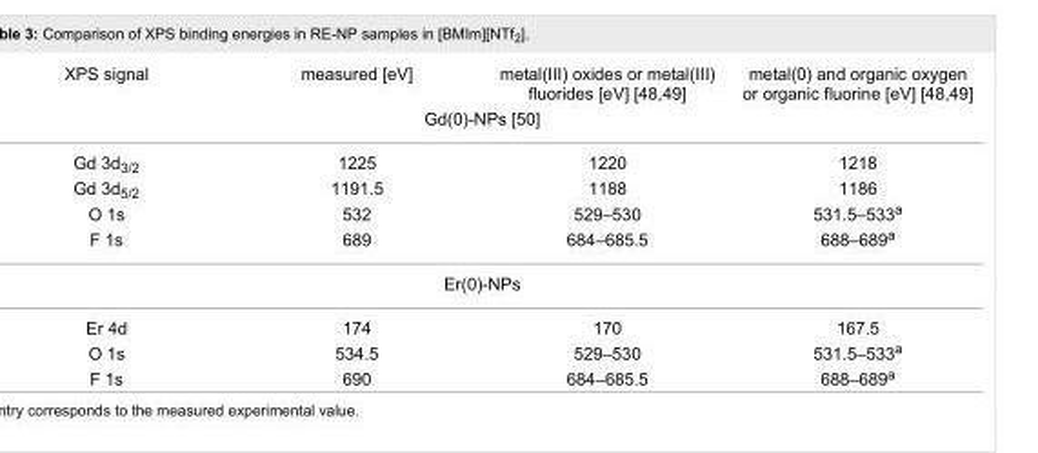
<table><tbody><tr><td>XPS signal</td><td>measured [eV]</td><td>metal(III) oxides or metal(III) fluorides [eV] [48–49]</td><td>metal(0) and organic oxygen or organic fluorine [eV] [48–49]</td></tr><tr><td colspan="4">Gd(0)-NPs [50]</td></tr><tr><td>Gd 3d<sub>3/2</sub></td><td>1225</td><td>1220</td><td>1218</td></tr><tr><td>Gd 3d<sub>5/2</sub></td><td>1191.5</td><td>1188</td><td>1186</td></tr><tr><td>O 1s</td><td>532</td><td>529–530</td><td>531.5–533<sup>a</sup></td></tr><tr><td>F 1s</td><td>689</td><td>684–685.5</td><td>688–689<sup>a</sup></td></tr><tr><td colspan="4">Er(0)-NPs</td></tr><tr><td>Er 4d</td><td>174</td><td>170</td><td>167.5</td></tr><tr><td>O 1s</td><td>534.5</td><td>529–530</td><td>531.5–533<sup>a</sup></td></tr><tr><td>F 1s</td><td>690</td><td>684–685.5</td><td>688–689<sup>a</sup></td></tr></tbody></table>